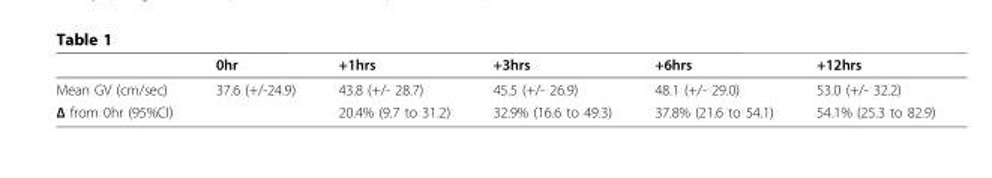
<table><thead><tr><td></td><td>0hr</td><td>+1hrs</td><td>+3hrs</td><td>+6hrs</td><td>+12hrs</td></tr></thead><tbody><tr><td>Mean GV (cm/sec)</td><td>37.6 (+/-24.9)</td><td>43.8 (+/- 28.7)</td><td>45.5 (+/- 26.9)</td><td>48.1 (+/- 29.0)</td><td>53.0 (+/- 32.2)</td></tr><tr><td>Δ from 0hr (95%CI)</td><td></td><td>20.4% (9.7 to 31.2)</td><td>32.9% (16.6 to 49.3)</td><td>37.8% (21.6 to 54.1)</td><td>54.1% (25.3 to 82.9)</td></tr></tbody></table>